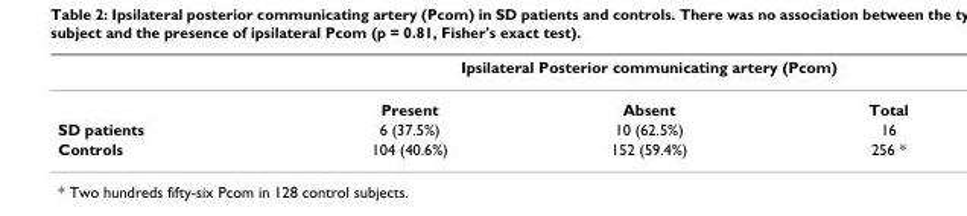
<table><thead><tr><td rowspan="2"></td><td colspan="3">Ipsilateral Posterior communicating artery (Pcom)</td></tr><tr><td>Present</td><td>Absent</td><td>Total</td></tr></thead><tbody><tr><td>SD patients</td><td>6 (37.5%)</td><td>10 (62.5%)</td><td>16</td></tr><tr><td>Controls</td><td>104 (40.6%)</td><td>152 (59.4%)</td><td>256 *</td></tr></tbody></table>